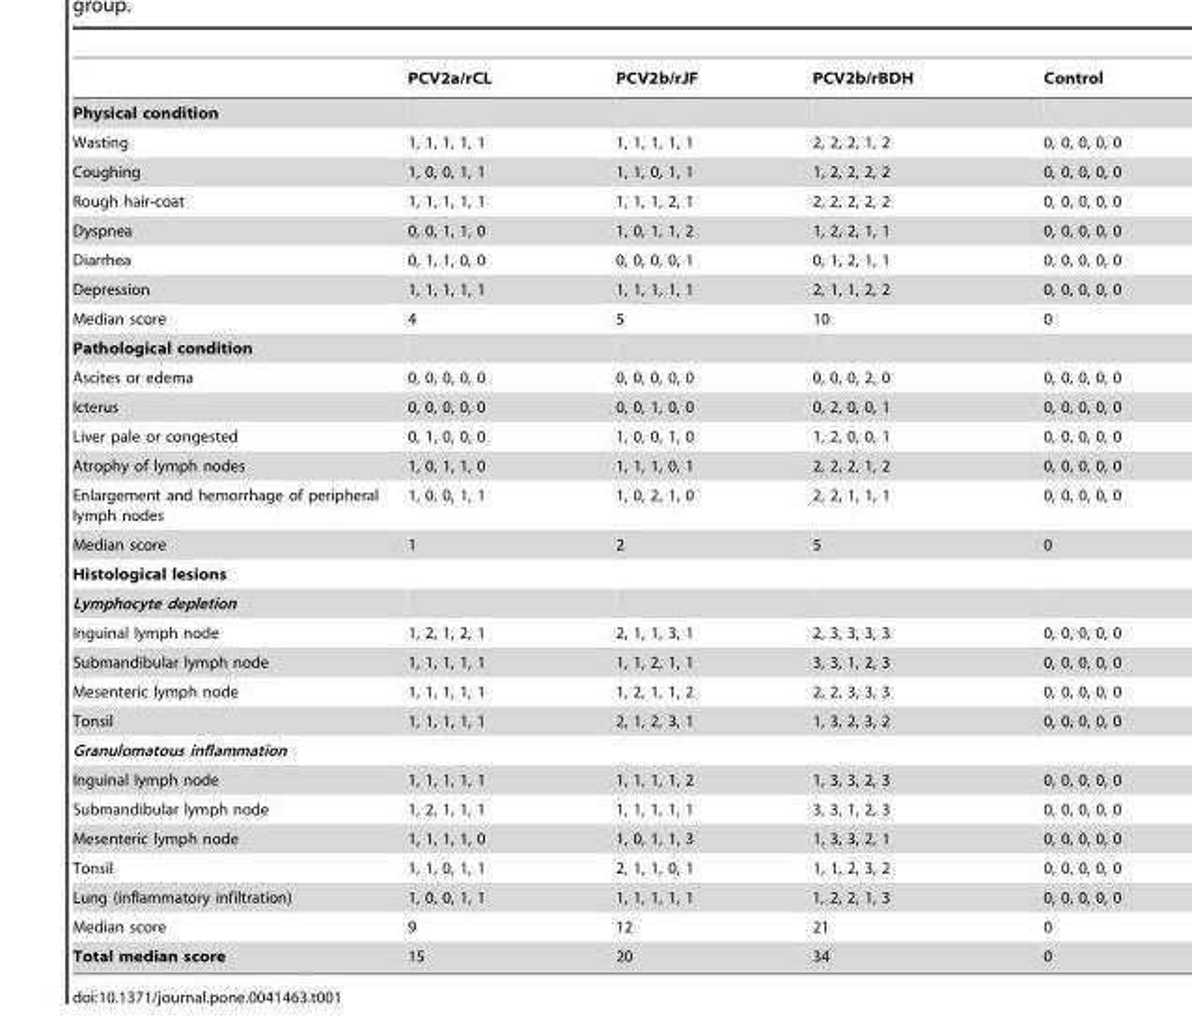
<table><thead><tr><td></td><td>PCV2a/rCL</td><td>PCV2b/rJF</td><td>PCV2b/rBDH</td><td>Control</td></tr></thead><tbody><tr><td colspan="5">Physical condition</td></tr><tr><td>Wasting</td><td>1, 1, 1, 1, 1</td><td>1, 1, 1, 1, 1</td><td>2, 2, 2, 1, 2</td><td>0, 0, 0, 0, 0</td></tr><tr><td>Coughing</td><td>1, 0, 0, 1, 1</td><td>1, 1, 0, 1, 1</td><td>1, 2, 2, 2, 2</td><td>0, 0, 0, 0, 0</td></tr><tr><td>Rough hair-coat</td><td>1, 1, 1, 1, 1</td><td>1, 1, 1, 2, 1</td><td>2, 2, 2, 2, 2</td><td>0, 0, 0, 0, 0</td></tr><tr><td>Dyspnea</td><td>0, 0, 1, 1, 0</td><td>1, 0, 1, 1, 2</td><td>1, 2, 2, 1, 1</td><td>0, 0, 0, 0, 0</td></tr><tr><td>Diarrhea</td><td>0, 1, 1, 0, 0</td><td>0, 0, 0, 0, 1</td><td>0, 1, 2, 1, 1</td><td>0, 0, 0, 0, 0</td></tr><tr><td>Depression</td><td>1, 1, 1, 1, 1</td><td>1, 1, 1, 1, 1</td><td>2, 1, 1, 2, 2</td><td>0, 0, 0, 0, 0</td></tr><tr><td>Median score</td><td>4</td><td>5</td><td>10</td><td>0</td></tr><tr><td colspan="5">Pathological condition</td></tr><tr><td>Ascites or edema</td><td>0, 0, 0, 0, 0</td><td>0, 0, 0, 0, 0</td><td>0, 0, 0, 2, 0</td><td>0, 0, 0, 0, 0</td></tr><tr><td>Icterus</td><td>0, 0, 0, 0, 0</td><td>0, 0, 1, 0, 0</td><td>0, 2, 0, 0, 1</td><td>0, 0, 0, 0, 0</td></tr><tr><td>Liver pale or congested</td><td>0, 1, 0, 0, 0</td><td>1, 0, 0, 1, 0</td><td>1, 2, 0, 0, 1</td><td>0, 0, 0, 0, 0</td></tr><tr><td>Atrophy of lymph nodes</td><td>1, 0, 1, 1, 0</td><td>1, 1, 1, 0, 1</td><td>2, 2, 2, 1, 2</td><td>0, 0, 0, 0, 0</td></tr><tr><td>Enlargement and hemorrhage of peripheral lymph nodes</td><td>1, 0, 0, 1, 1</td><td>1, 0, 2, 1, 0</td><td>2, 2, 1, 1, 1</td><td>0, 0, 0, 0, 0</td></tr><tr><td>Median score</td><td>1</td><td>2</td><td>5</td><td>0</td></tr><tr><td colspan="5">Histological lesions</td></tr><tr><td colspan="5">Lymphocyte depletion</td></tr><tr><td>Inguinal lymph node</td><td>1, 2, 1, 2, 1</td><td>2, 1, 1, 3, 1</td><td>2, 3, 3, 3, 3</td><td>0, 0, 0, 0, 0</td></tr><tr><td>Submandibular lymph node</td><td>1, 1, 1, 1, 1</td><td>1, 1, 2, 1, 1</td><td>3, 3, 1, 2, 3</td><td>0, 0, 0, 0, 0</td></tr><tr><td>Mesenteric lymph node</td><td>1, 1, 1, 1, 1</td><td>1, 2, 1, 1, 2</td><td>2, 2, 3, 3, 3</td><td>0, 0, 0, 0, 0</td></tr><tr><td>Tonsil</td><td>1, 1, 1, 1, 1</td><td>2, 1, 2, 3, 1</td><td>1, 3, 2, 3, 2</td><td>0, 0, 0, 0, 0</td></tr><tr><td colspan="5">Granulomatous inflammation</td></tr><tr><td>Inguinal lymph node</td><td>1, 1, 1, 1, 1</td><td>1, 1, 1, 1, 2</td><td>1, 3, 3, 2, 3</td><td>0, 0, 0, 0, 0</td></tr><tr><td>Submandibular lymph node</td><td>1, 2, 1, 1, 1</td><td>1, 1, 1, 1, 1</td><td>3, 3, 1, 2, 3</td><td>0, 0, 0, 0, 0</td></tr><tr><td>Mesenteric lymph node</td><td>1, 1, 1, 1, 0</td><td>1, 0, 1, 1, 3</td><td>1, 3, 3, 2, 1</td><td>0, 0, 0, 0, 0</td></tr><tr><td>Tonsil</td><td>1, 1, 0, 1, 1</td><td>2, 1, 1, 0, 1</td><td>1, 1, 2, 3, 2</td><td>0, 0, 0, 0, 0</td></tr><tr><td>Lung (inflammatory infiltration)</td><td>1, 0, 0, 1, 1</td><td>1, 1, 1, 1, 1</td><td>1, 2, 2, 1, 3</td><td>0, 0, 0, 0, 0</td></tr><tr><td>Median score</td><td>9</td><td>12</td><td>21</td><td>0</td></tr><tr><td>Total median score</td><td>15</td><td>20</td><td>34</td><td>0</td></tr></tbody></table>